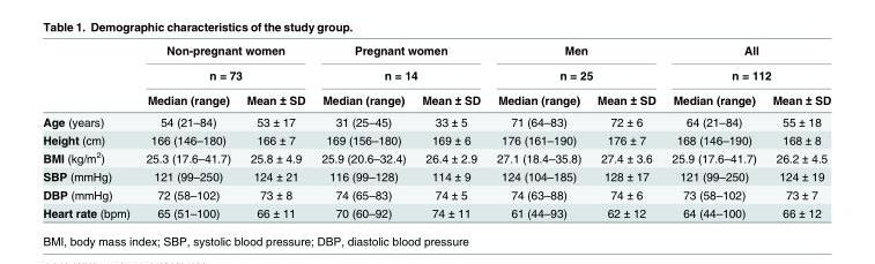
<table><thead><tr><td rowspan="3"></td><td rowspan="2" colspan="2">Non-pregnant women n = 73</td><td rowspan="2" colspan="2">Pregnant women n = 14</td><td rowspan="2" colspan="2">Men n = 25</td><td rowspan="2" colspan="2">All n = 112</td></tr><tr></tr><tr><td>Median (range)</td><td>Mean ± SD</td><td>Median (range)</td><td>Mean ± SD</td><td>Median (range)</td><td>Mean ± SD</td><td>Median (range)</td><td>Mean ± SD</td></tr></thead><tbody><tr><td>Age (years)</td><td>54 (21–84)</td><td>53 ± 17</td><td>31 (25–45)</td><td>33 ± 5</td><td>71 (64–83)</td><td>72 ± 6</td><td>64 (21–84)</td><td>55 ± 18</td></tr><tr><td>Height (cm)</td><td>166 (146–180)</td><td>166 ± 7</td><td>169 (156–180)</td><td>169 ± 6</td><td>176 (161–190)</td><td>176 ± 7</td><td>168 (146–190)</td><td>168 ± 8</td></tr><tr><td>BMI (kg/m<sup>2</sup>)</td><td>25.3 (17.6–41.7)</td><td>25.8 ± 4.9</td><td>25.9 (20.6–32.4)</td><td>26.4 ± 2.9</td><td>27.1 (18.4–35.8)</td><td>27.4 ± 3.6</td><td>25.9 (17.6–41.7)</td><td>26.2 ± 4.5</td></tr><tr><td>SBP (mmHg)</td><td>121 (99–250)</td><td>124 ± 21</td><td>116 (99–128)</td><td>114 ± 9</td><td>124 (104–185)</td><td>128 ± 17</td><td>121 (99–250)</td><td>124 ± 19</td></tr><tr><td>DBP (mmHg)</td><td>72 (58–102)</td><td>73 ± 8</td><td>74 (65–83)</td><td>74 ± 5</td><td>74 (63–88)</td><td>74 ± 6</td><td>73 (58–102)</td><td>73 ± 7</td></tr><tr><td>Heart rate (bpm)</td><td>65 (51–100)</td><td>66 ± 11</td><td>70 (60–92)</td><td>74 ± 11</td><td>61 (44–93)</td><td>62 ± 12</td><td>64 (44–100)</td><td>66 ± 12</td></tr></tbody></table>